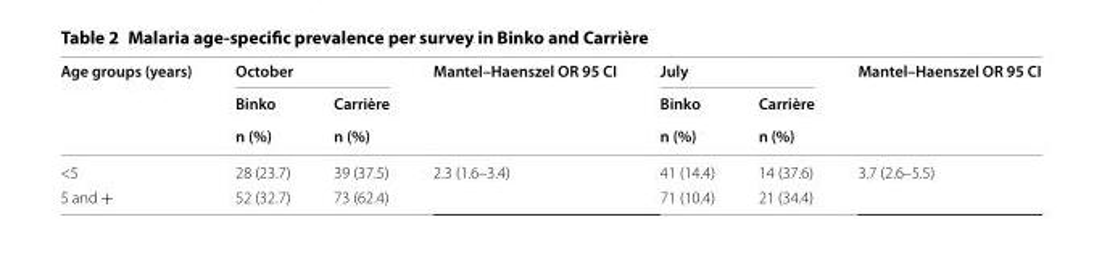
<table><thead><tr><td rowspan="3">Age groups (years)</td><td colspan="2">October</td><td rowspan="3">Mantel–Haenszel OR 95 CI</td><td colspan="2">July</td><td rowspan="3">Mantel–Haenszel OR 95 CI</td></tr><tr><td rowspan="2">Binko n (%)</td><td rowspan="2">Carrière n (%)</td><td rowspan="2">Binko n (%)</td><td rowspan="2">Carrière n (%)</td></tr><tr></tr></thead><tbody><tr><td>&lt;5</td><td>28 (23.7)</td><td>39 (37.5)</td><td rowspan="2">2.3 (1.6–3.4)</td><td>41 (14.4)</td><td>14 (37.6)</td><td rowspan="2">3.7 (2.6–5.5)</td></tr><tr><td>5 and +</td><td>52 (32.7)</td><td>73 (62.4)</td><td>71 (10.4)</td><td>21 (34.4)</td></tr></tbody></table>